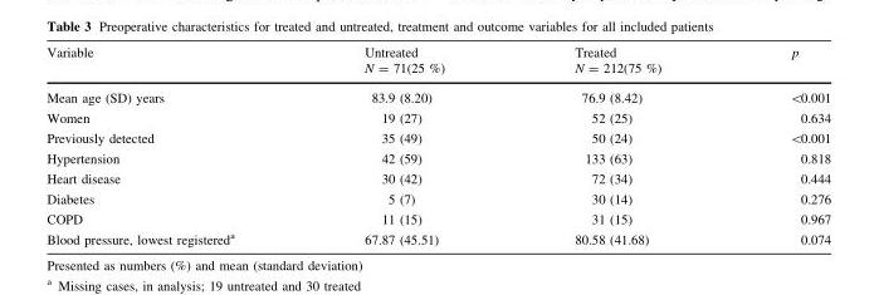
<table><thead><tr><td>Variable</td><td>Untreated N = 71(25 %)</td><td>Treated N = 212(75 %)</td><td>p</td></tr></thead><tbody><tr><td>Mean age (SD) years</td><td>83.9 (8.20)</td><td>76.9 (8.42)</td><td>&lt;0.001</td></tr><tr><td>Women</td><td>19 (27)</td><td>52 (25)</td><td>0.634</td></tr><tr><td>Previously detected</td><td>35 (49)</td><td>50 (24)</td><td>&lt;0.001</td></tr><tr><td>Hypertension</td><td>42 (59)</td><td>133 (63)</td><td>0.818</td></tr><tr><td>Heart disease</td><td>30 (42)</td><td>72 (34)</td><td>0.444</td></tr><tr><td>Diabetes</td><td>5 (7)</td><td>30 (14)</td><td>0.276</td></tr><tr><td>COPD</td><td>11 (15)</td><td>31 (15)</td><td>0.967</td></tr><tr><td>Blood pressure, lowest registered<sup>a</sup></td><td>67.87 (45.51)</td><td>80.58 (41.68)</td><td>0.074</td></tr></tbody></table>